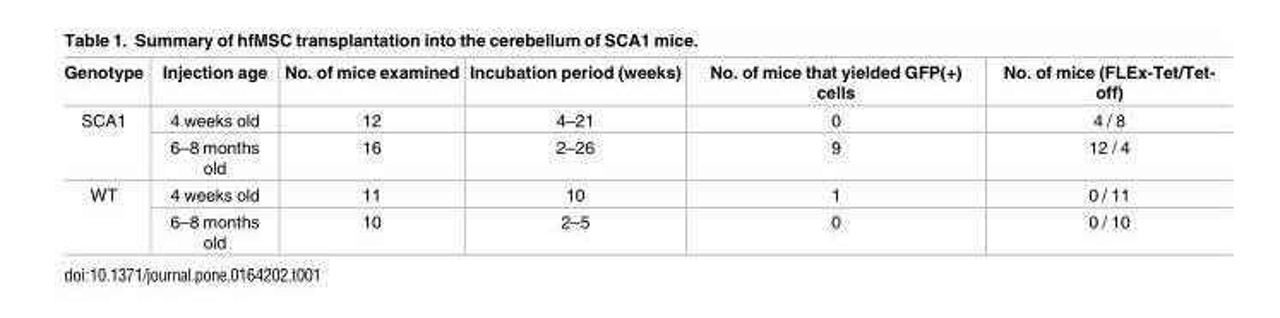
<table><thead><tr><td>Genotype</td><td>Injection age</td><td>No. of mice examined</td><td>Incubation period (weeks)</td><td>No. of mice that yielded GFP(+) cells</td><td>No. of mice (FLEx-Tet/Tet- off)</td></tr></thead><tbody><tr><td rowspan="2">SCA1</td><td>4 weeks old</td><td>12</td><td>4–21</td><td>0</td><td>4 / 8</td></tr><tr><td>6–8 months old</td><td>16</td><td>2–26</td><td>9</td><td>12 / 4</td></tr><tr><td rowspan="2">WT</td><td>4 weeks old</td><td>11</td><td>10</td><td>1</td><td>0 / 11</td></tr><tr><td>6–8 months old</td><td>10</td><td>2–5</td><td>0</td><td>0 / 10</td></tr></tbody></table>